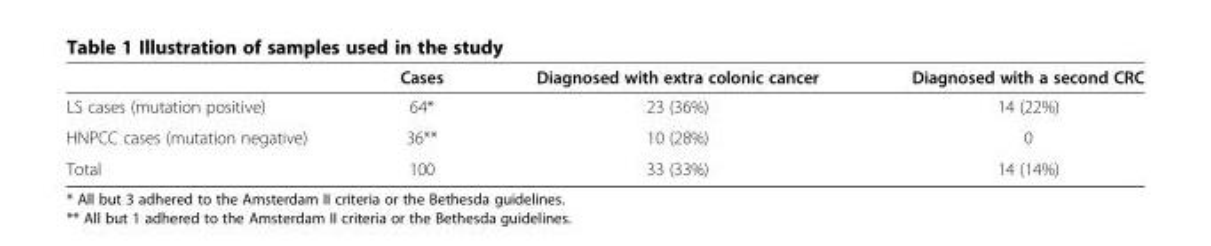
<table><thead><tr><td></td><td>Cases</td><td>Diagnosed with extra colonic cancer</td><td>Diagnosed with a second CRC</td></tr></thead><tbody><tr><td>LS cases (mutation positive)</td><td>64*</td><td>23 (36%)</td><td>14 (22%)</td></tr><tr><td>HNPCC cases (mutation negative)</td><td>36**</td><td>10 (28%)</td><td>0</td></tr><tr><td>Total</td><td>100</td><td>33 (33%)</td><td>14 (14%)</td></tr></tbody></table>